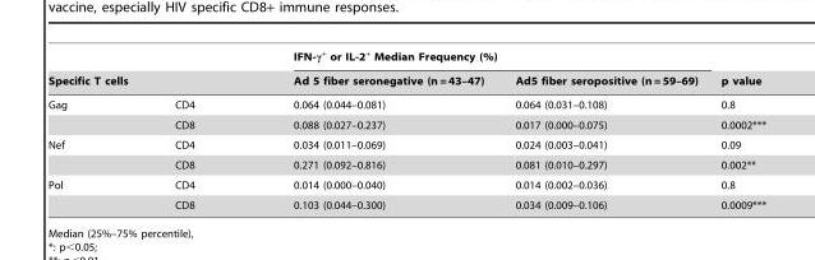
<table><thead><tr><td></td><td></td><td colspan="2">IFN-γ<sup>+</sup> or IL-2<sup>+</sup> Median Frequency (%)</td><td rowspan="2">p value</td></tr><tr><td colspan="2">Specific T cells</td><td>Ad 5 fiber seronegative (n = 43–47)</td><td>Ad5 fiber seropositive (n = 59–69)</td></tr></thead><tbody><tr><td rowspan="2">Gag</td><td>CD4</td><td>0.064 (0.044–0.081)</td><td>0.064 (0.031–0.108)</td><td>0.8</td></tr><tr><td>CD8</td><td>0.088 (0.027–0.237)</td><td>0.017 (0.000–0.075)</td><td>0.0002***</td></tr><tr><td rowspan="2">Nef</td><td>CD4</td><td>0.034 (0.011–0.069)</td><td>0.024 (0.003–0.041)</td><td>0.09</td></tr><tr><td>CD8</td><td>0.271 (0.092–0.816)</td><td>0.081 (0.010–0.297)</td><td>0.002**</td></tr><tr><td rowspan="2">Pol</td><td>CD4</td><td>0.014 (0.000–0.040)</td><td>0.014 (0.002–0.036)</td><td>0.8</td></tr><tr><td>CD8</td><td>0.103 (0.044–0.300)</td><td>0.034 (0.009–0.106)</td><td>0.0009***</td></tr></tbody></table>